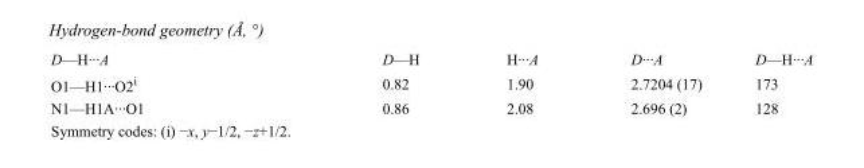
<table><tbody><tr><td>D—H···A</td><td>D—H</td><td>H···A</td><td>D···A</td><td>D—H···A</td></tr><tr><td>O1—H1···O2<sup>i</sup></td><td>0.82</td><td>1.90</td><td>2.7204 (17)</td><td>173</td></tr><tr><td>N1—H1A···O1</td><td>0.86</td><td>2.08</td><td>2.696 (2)</td><td>128</td></tr></tbody></table>